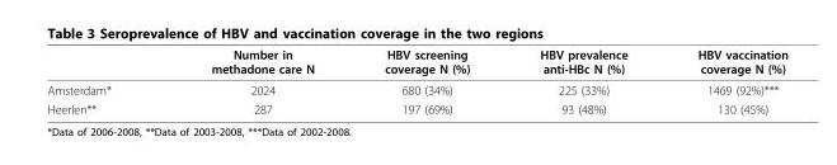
<table><thead><tr><td></td><td>Number in methadone care N</td><td>HBV screening coverage N (%)</td><td>HBV prevalence anti-HBc N (%)</td><td>HBV vaccination coverage N (%)</td></tr></thead><tbody><tr><td>Amsterdam*</td><td>2024</td><td>680 (34%)</td><td>225 (33%)</td><td>1469 (92%)***</td></tr><tr><td>Heerlen**</td><td>287</td><td>197 (69%)</td><td>93 (48%)</td><td>130 (45%)</td></tr></tbody></table>